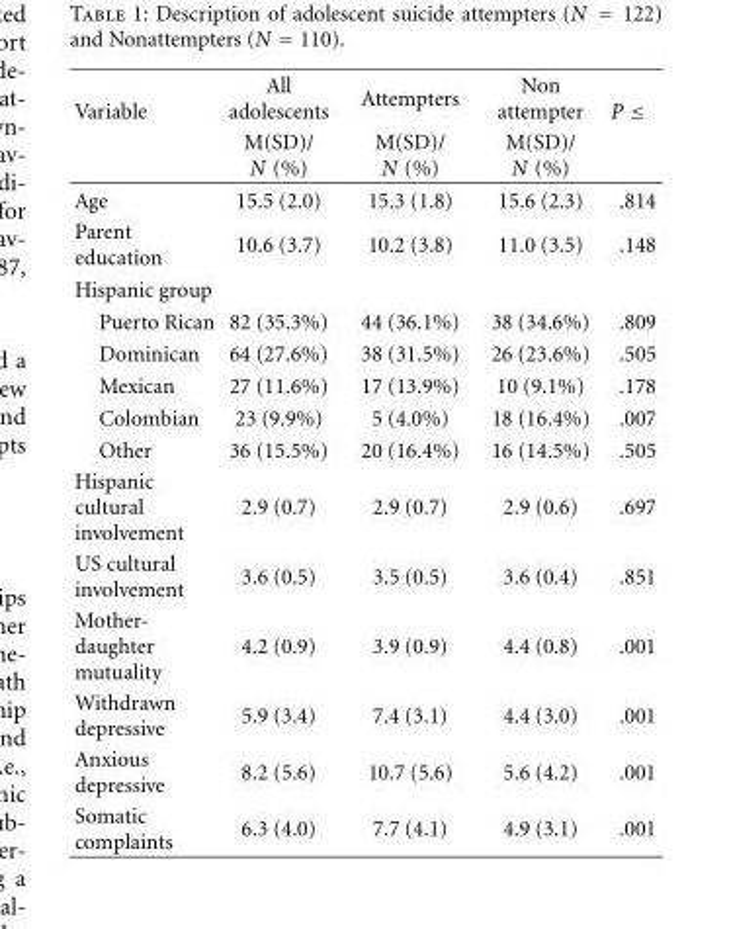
<table><thead><tr><td rowspan="2">Variable</td><td rowspan="2">All adolescents M(SD)/ N (%)</td><td rowspan="2">Attempters M(SD)/ N (%)</td><td rowspan="2">Non attempter M(SD)/ N (%)</td><td rowspan="2">P ≤</td></tr><tr></tr></thead><tbody><tr><td>Age</td><td>15.5 (2.0)</td><td>15.3 (1.8)</td><td>15.6 (2.3)</td><td>.814</td></tr><tr><td>Parent education</td><td>10.6 (3.7)</td><td>10.2 (3.8)</td><td>11.0 (3.5)</td><td>.148</td></tr><tr><td colspan="5">Hispanic group</td></tr><tr><td>Puerto Rican</td><td>82 (35.3%)</td><td>44 (36.1%)</td><td>38 (34.6%)</td><td>.809</td></tr><tr><td>Dominican</td><td>64 (27.6%)</td><td>38 (31.5%)</td><td>26 (23.6%)</td><td>.505</td></tr><tr><td>Mexican</td><td>27 (11.6%)</td><td>17 (13.9%)</td><td>10 (9.1%)</td><td>.178</td></tr><tr><td>Colombian</td><td>23 (9.9%)</td><td>5 (4.0%)</td><td>18 (16.4%)</td><td>.007</td></tr><tr><td>Other</td><td>36 (15.5%)</td><td>20 (16.4%)</td><td>16 (14.5%)</td><td>.505</td></tr><tr><td>Hispanic cultural involvement</td><td>2.9 (0.7)</td><td>2.9 (0.7)</td><td>2.9 (0.6)</td><td>.697</td></tr><tr><td>US cultural involvement</td><td>3.6 (0.5)</td><td>3.5 (0.5)</td><td>3.6 (0.4)</td><td>.851</td></tr><tr><td>Mother- daughter mutuality</td><td>4.2 (0.9)</td><td>3.9 (0.9)</td><td>4.4 (0.8)</td><td>.001</td></tr><tr><td>Withdrawn depressive</td><td>5.9 (3.4)</td><td>7.4 (3.1)</td><td>4.4 (3.0)</td><td>.001</td></tr><tr><td>Anxious depressive</td><td>8.2 (5.6)</td><td>10.7 (5.6)</td><td>5.6 (4.2)</td><td>.001</td></tr><tr><td>Somatic complaints</td><td>6.3 (4.0)</td><td>7.7 (4.1)</td><td>4.9 (3.1)</td><td>.001</td></tr></tbody></table>